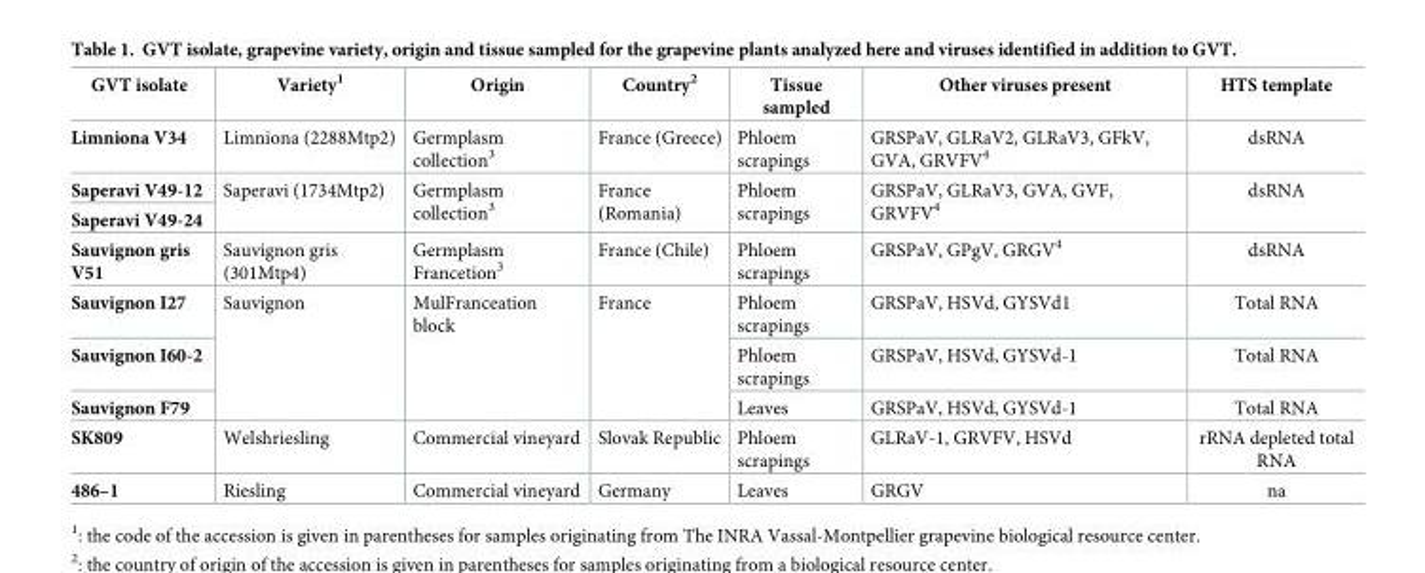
<table><thead><tr><td>GVT isolate</td><td>Variety<sup>1</sup></td><td>Origin</td><td>Country<sup>2</sup></td><td>Tissue sampled</td><td>Other viruses present</td><td>HTS template</td></tr></thead><tbody><tr><td>Limniona V34</td><td>Limniona (2288Mtp2)</td><td>Germplasm collection<sup>3</sup></td><td>France (Greece)</td><td>Phloem scrapings</td><td>GRSPaV, GLRaV2, GLRaV3, GFkV, GVA, GRVFV<sup>4</sup></td><td>dsRNA</td></tr><tr><td>Saperavi V49-12</td><td rowspan="2">Saperavi (1734Mtp2)</td><td rowspan="2">Germplasm collection<sup>3</sup></td><td rowspan="2">France (Romania)</td><td rowspan="2">Phloem scrapings</td><td rowspan="2">GRSPaV, GLRaV3, GVA, GVF, GRVFV<sup>4</sup></td><td rowspan="2">dsRNA</td></tr><tr><td>Saperavi V49-24</td></tr><tr><td>Sauvignon gris V51</td><td>Sauvignon gris (301Mtp4)</td><td>Germplasm Francetion<sup>3</sup></td><td>France (Chile)</td><td>Phloem scrapings</td><td>GRSPaV, GPgV, GRGV<sup>4</sup></td><td>dsRNA</td></tr><tr><td>Sauvignon I27</td><td rowspan="3">Sauvignon</td><td rowspan="3">MulFranceation block</td><td rowspan="3">France</td><td>Phloem scrapings</td><td>GRSPaV, HSVd, GYSVd1</td><td>Total RNA</td></tr><tr><td>Sauvignon I60-2</td><td>Phloem scrapings</td><td>GRSPaV, HSVd, GYSVd-1</td><td>Total RNA</td></tr><tr><td>Sauvignon F79</td><td>Leaves</td><td>GRSPaV, HSVd, GYSVd-1</td><td>Total RNA</td></tr><tr><td>SK809</td><td>Welshriesling</td><td>Commercial vineyard</td><td>Slovak Republic</td><td>Phloem scrapings</td><td>GLRaV-1, GRVFV, HSVd</td><td>rRNA depleted total RNA</td></tr><tr><td>486–1</td><td>Riesling</td><td>Commercial vineyard</td><td>Germany</td><td>Leaves</td><td>GRGV</td><td>na</td></tr></tbody></table>